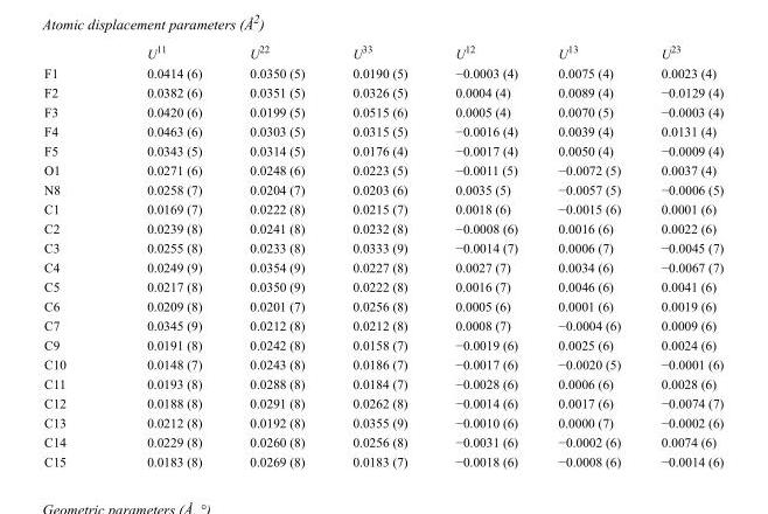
<table><thead><tr><td></td><td>U<sup>11</sup></td><td>U<sup>22</sup></td><td>U<sup>33</sup></td><td>U<sup>12</sup></td><td>U<sup>13</sup></td><td>U<sup>23</sup></td></tr></thead><tbody><tr><td>F1</td><td>0.0414 (6)</td><td>0.0350 (5)</td><td>0.0190 (5)</td><td>−0.0003 (4)</td><td>0.0075 (4)</td><td>0.0023 (4)</td></tr><tr><td>F2</td><td>0.0382 (6)</td><td>0.0351 (5)</td><td>0.0326 (5)</td><td>0.0004 (4)</td><td>0.0089 (4)</td><td>−0.0129 (4)</td></tr><tr><td>F3</td><td>0.0420 (6)</td><td>0.0199 (5)</td><td>0.0515 (6)</td><td>0.0005 (4)</td><td>0.0070 (5)</td><td>−0.0003 (4)</td></tr><tr><td>F4</td><td>0.0463 (6)</td><td>0.0303 (5)</td><td>0.0315 (5)</td><td>−0.0016 (4)</td><td>0.0039 (4)</td><td>0.0131 (4)</td></tr><tr><td>F5</td><td>0.0343 (5)</td><td>0.0314 (5)</td><td>0.0176 (4)</td><td>−0.0017 (4)</td><td>0.0050 (4)</td><td>−0.0009 (4)</td></tr><tr><td>O1</td><td>0.0271 (6)</td><td>0.0248 (6)</td><td>0.0223 (5)</td><td>−0.0011 (5)</td><td>−0.0072 (5)</td><td>0.0037 (4)</td></tr><tr><td>N8</td><td>0.0258 (7)</td><td>0.0204 (7)</td><td>0.0203 (6)</td><td>0.0035 (5)</td><td>−0.0057 (5)</td><td>−0.0006 (5)</td></tr><tr><td>C1</td><td>0.0169 (7)</td><td>0.0222 (8)</td><td>0.0215 (7)</td><td>0.0018 (6)</td><td>−0.0015 (6)</td><td>0.0001 (6)</td></tr><tr><td>C2</td><td>0.0239 (8)</td><td>0.0241 (8)</td><td>0.0232 (8)</td><td>−0.0008 (6)</td><td>0.0016 (6)</td><td>0.0022 (6)</td></tr><tr><td>C3</td><td>0.0255 (8)</td><td>0.0233 (8)</td><td>0.0333 (9)</td><td>−0.0014 (7)</td><td>0.0006 (7)</td><td>−0.0045 (7)</td></tr><tr><td>C4</td><td>0.0249 (9)</td><td>0.0354 (9)</td><td>0.0227 (8)</td><td>0.0027 (7)</td><td>0.0034 (6)</td><td>−0.0067 (7)</td></tr><tr><td>C5</td><td>0.0217 (8)</td><td>0.0350 (9)</td><td>0.0222 (8)</td><td>0.0016 (7)</td><td>0.0046 (6)</td><td>0.0041 (6)</td></tr><tr><td>C6</td><td>0.0209 (8)</td><td>0.0201 (7)</td><td>0.0256 (8)</td><td>0.0005 (6)</td><td>0.0001 (6)</td><td>0.0019 (6)</td></tr><tr><td>C7</td><td>0.0345 (9)</td><td>0.0212 (8)</td><td>0.0212 (8)</td><td>0.0008 (7)</td><td>−0.0004 (6)</td><td>0.0009 (6)</td></tr><tr><td>C9</td><td>0.0191 (8)</td><td>0.0242 (8)</td><td>0.0158 (7)</td><td>−0.0019 (6)</td><td>0.0025 (6)</td><td>0.0024 (6)</td></tr><tr><td>C10</td><td>0.0148 (7)</td><td>0.0243 (8)</td><td>0.0186 (7)</td><td>−0.0017 (6)</td><td>−0.0020 (5)</td><td>−0.0001 (6)</td></tr><tr><td>C11</td><td>0.0193 (8)</td><td>0.0288 (8)</td><td>0.0184 (7)</td><td>−0.0028 (6)</td><td>0.0006 (6)</td><td>0.0028 (6)</td></tr><tr><td>C12</td><td>0.0188 (8)</td><td>0.0291 (8)</td><td>0.0262 (8)</td><td>−0.0014 (6)</td><td>0.0017 (6)</td><td>−0.0074 (7)</td></tr><tr><td>C13</td><td>0.0212 (8)</td><td>0.0192 (8)</td><td>0.0355 (9)</td><td>−0.0010 (6)</td><td>0.0000 (7)</td><td>−0.0002 (6)</td></tr><tr><td>C14</td><td>0.0229 (8)</td><td>0.0260 (8)</td><td>0.0256 (8)</td><td>−0.0031 (6)</td><td>−0.0002 (6)</td><td>0.0074 (6)</td></tr><tr><td>C15</td><td>0.0183 (8)</td><td>0.0269 (8)</td><td>0.0183 (7)</td><td>−0.0018 (6)</td><td>−0.0008 (6)</td><td>−0.0014 (6)</td></tr></tbody></table>